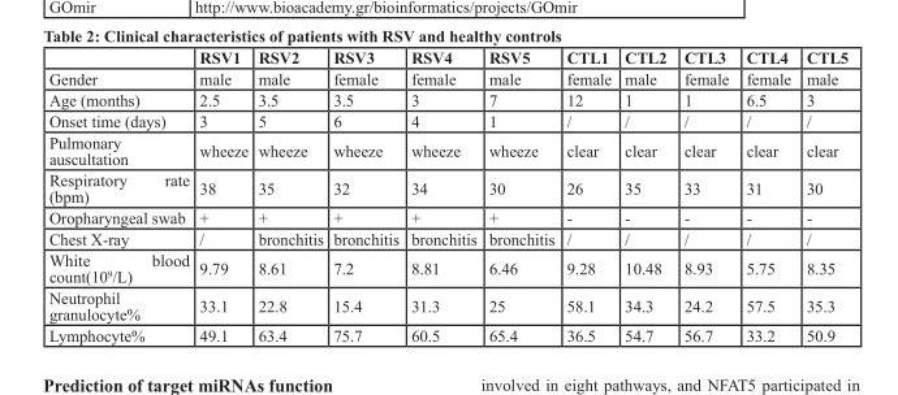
<table><thead><tr><td></td><td>RSV1</td><td>RSV2</td><td>RSV3</td><td>RSV4</td><td>RSV5</td><td>CTL1</td><td>CTL2</td><td>CTL3</td><td>CTL4</td><td>CTL5</td></tr></thead><tbody><tr><td>Gender</td><td>male</td><td>male</td><td>female</td><td>female</td><td>male</td><td>female</td><td>male</td><td>female</td><td>female</td><td>male</td></tr><tr><td>Age (months)</td><td>2.5</td><td>3.5</td><td>3.5</td><td>3</td><td>7</td><td>12</td><td>1</td><td>1</td><td>6.5</td><td>3</td></tr><tr><td>Onset time (days)</td><td>3</td><td>5</td><td>6</td><td>4</td><td>1</td><td>/</td><td>/</td><td>/</td><td>/</td><td>/</td></tr><tr><td>Pulmonary auscultation</td><td>wheeze</td><td>wheeze</td><td>wheeze</td><td>wheeze</td><td>wheeze</td><td>clear</td><td>clear</td><td>clear</td><td>clear</td><td>clear</td></tr><tr><td>Respiratory rate (bpm)</td><td>38</td><td>35</td><td>32</td><td>34</td><td>30</td><td>26</td><td>35</td><td>33</td><td>31</td><td>30</td></tr><tr><td>Oropharyngeal swab</td><td>+</td><td>+</td><td>+</td><td>+</td><td>+</td><td>-</td><td>-</td><td>-</td><td>-</td><td>-</td></tr><tr><td>Chest X-ray</td><td>/</td><td>bronchitis</td><td>bronchitis</td><td>bronchitis</td><td>bronchitis</td><td>/</td><td>/</td><td>/</td><td>/</td><td>/</td></tr><tr><td>White blood count(10<sup>9</sup>/L)</td><td>9.79</td><td>8.61</td><td>7.2</td><td>8.81</td><td>6.46</td><td>9.28</td><td>10.48</td><td>8.93</td><td>5.75</td><td>8.35</td></tr><tr><td>Neutrophil granulocyte%</td><td>33.1</td><td>22.8</td><td>15.4</td><td>31.3</td><td>25</td><td>58.1</td><td>34.3</td><td>24.2</td><td>57.5</td><td>35.3</td></tr><tr><td>Lymphocyte%</td><td>49.1</td><td>63.4</td><td>75.7</td><td>60.5</td><td>65.4</td><td>36.5</td><td>54.7</td><td>56.7</td><td>33.2</td><td>50.9</td></tr></tbody></table>